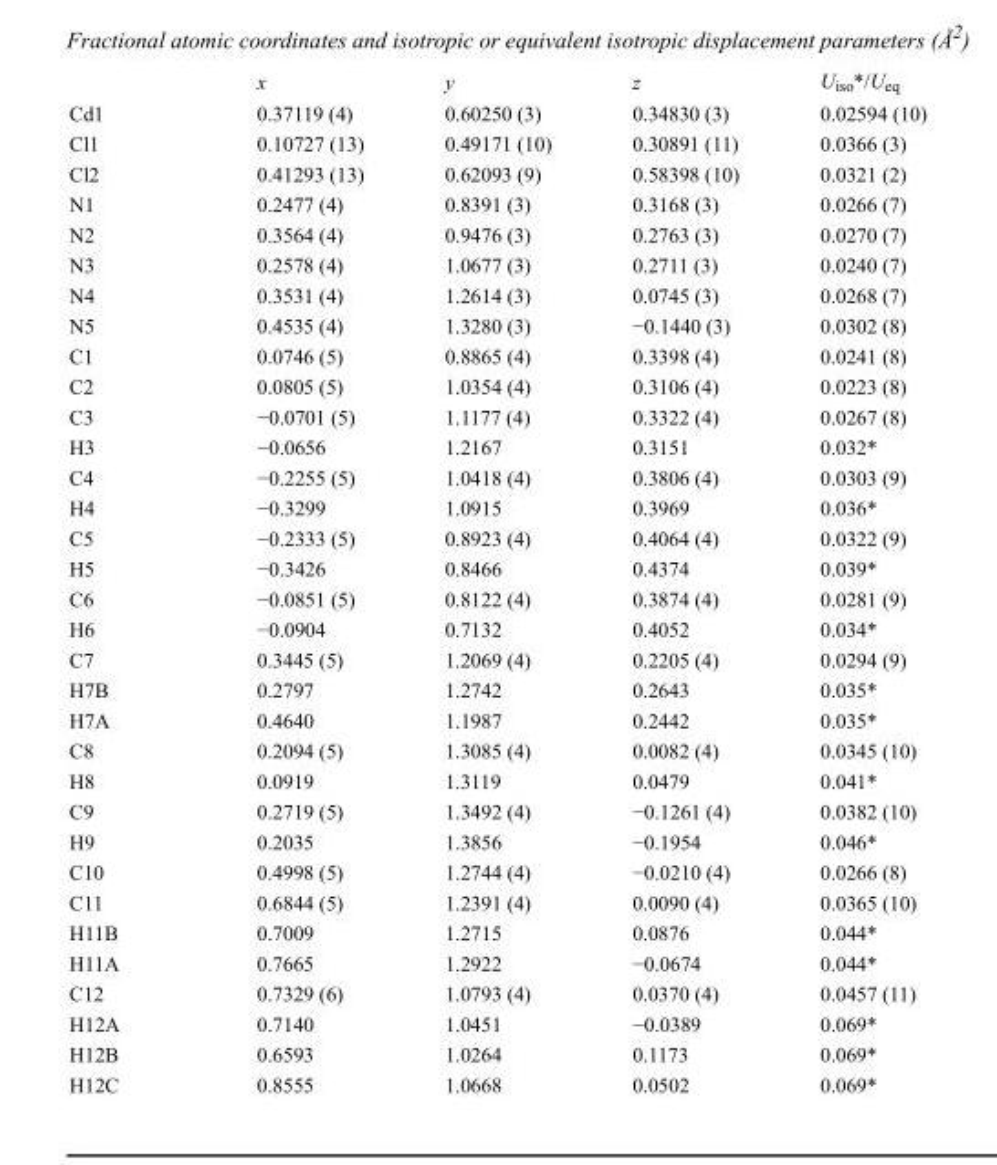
<table><thead><tr><td></td><td>x</td><td>y</td><td>z</td><td>U<sub>iso</sub>*/U<sub>eq</sub></td></tr></thead><tbody><tr><td>Cd1</td><td>0.37119 (4)</td><td>0.60250 (3)</td><td>0.34830 (3)</td><td>0.02594 (10)</td></tr><tr><td>Cl1</td><td>0.10727 (13)</td><td>0.49171 (10)</td><td>0.30891 (11)</td><td>0.0366 (3)</td></tr><tr><td>Cl2</td><td>0.41293 (13)</td><td>0.62093 (9)</td><td>0.58398 (10)</td><td>0.0321 (2)</td></tr><tr><td>N1</td><td>0.2477 (4)</td><td>0.8391 (3)</td><td>0.3168 (3)</td><td>0.0266 (7)</td></tr><tr><td>N2</td><td>0.3564 (4)</td><td>0.9476 (3)</td><td>0.2763 (3)</td><td>0.0270 (7)</td></tr><tr><td>N3</td><td>0.2578 (4)</td><td>1.0677 (3)</td><td>0.2711 (3)</td><td>0.0240 (7)</td></tr><tr><td>N4</td><td>0.3531 (4)</td><td>1.2614 (3)</td><td>0.0745 (3)</td><td>0.0268 (7)</td></tr><tr><td>N5</td><td>0.4535 (4)</td><td>1.3280 (3)</td><td>−0.1440 (3)</td><td>0.0302 (8)</td></tr><tr><td>C1</td><td>0.0746 (5)</td><td>0.8865 (4)</td><td>0.3398 (4)</td><td>0.0241 (8)</td></tr><tr><td>C2</td><td>0.0805 (5)</td><td>1.0354 (4)</td><td>0.3106 (4)</td><td>0.0223 (8)</td></tr><tr><td>C3</td><td>−0.0701 (5)</td><td>1.1177 (4)</td><td>0.3322 (4)</td><td>0.0267 (8)</td></tr><tr><td>H3</td><td>−0.0656</td><td>1.2167</td><td>0.3151</td><td>0.032*</td></tr><tr><td>C4</td><td>−0.2255 (5)</td><td>1.0418 (4)</td><td>0.3806 (4)</td><td>0.0303 (9)</td></tr><tr><td>H4</td><td>−0.3299</td><td>1.0915</td><td>0.3969</td><td>0.036*</td></tr><tr><td>C5</td><td>−0.2333 (5)</td><td>0.8923 (4)</td><td>0.4064 (4)</td><td>0.0322 (9)</td></tr><tr><td>H5</td><td>−0.3426</td><td>0.8466</td><td>0.4374</td><td>0.039*</td></tr><tr><td>C6</td><td>−0.0851 (5)</td><td>0.8122 (4)</td><td>0.3874 (4)</td><td>0.0281 (9)</td></tr><tr><td>H6</td><td>−0.0904</td><td>0.7132</td><td>0.4052</td><td>0.034*</td></tr><tr><td>C7</td><td>0.3445 (5)</td><td>1.2069 (4)</td><td>0.2205 (4)</td><td>0.0294 (9)</td></tr><tr><td>H7B</td><td>0.2797</td><td>1.2742</td><td>0.2643</td><td>0.035*</td></tr><tr><td>H7A</td><td>0.4640</td><td>1.1987</td><td>0.2442</td><td>0.035*</td></tr><tr><td>C8</td><td>0.2094 (5)</td><td>1.3085 (4)</td><td>0.0082 (4)</td><td>0.0345 (10)</td></tr><tr><td>H8</td><td>0.0919</td><td>1.3119</td><td>0.0479</td><td>0.041*</td></tr><tr><td>C9</td><td>0.2719 (5)</td><td>1.3492 (4)</td><td>−0.1261 (4)</td><td>0.0382 (10)</td></tr><tr><td>H9</td><td>0.2035</td><td>1.3856</td><td>−0.1954</td><td>0.046*</td></tr><tr><td>C10</td><td>0.4998 (5)</td><td>1.2744 (4)</td><td>−0.0210 (4)</td><td>0.0266 (8)</td></tr><tr><td>C11</td><td>0.6844 (5)</td><td>1.2391 (4)</td><td>0.0090 (4)</td><td>0.0365 (10)</td></tr><tr><td>H11B</td><td>0.7009</td><td>1.2715</td><td>0.0876</td><td>0.044*</td></tr><tr><td>H11A</td><td>0.7665</td><td>1.2922</td><td>−0.0674</td><td>0.044*</td></tr><tr><td>C12</td><td>0.7329 (6)</td><td>1.0793 (4)</td><td>0.0370 (4)</td><td>0.0457 (11)</td></tr><tr><td>H12A</td><td>0.7140</td><td>1.0451</td><td>−0.0389</td><td>0.069*</td></tr><tr><td>H12B</td><td>0.6593</td><td>1.0264</td><td>0.1173</td><td>0.069*</td></tr><tr><td>H12C</td><td>0.8555</td><td>1.0668</td><td>0.0502</td><td>0.069*</td></tr></tbody></table>